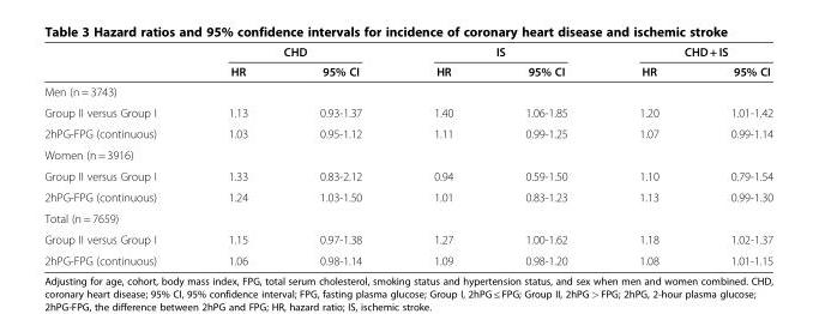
<table><thead><tr><td rowspan="2"></td><td colspan="2">CHD</td><td colspan="2">IS</td><td colspan="2">CHD + IS</td></tr><tr><td>HR</td><td>95% CI</td><td>HR</td><td>95% CI</td><td>HR</td><td>95% CI</td></tr></thead><tbody><tr><td colspan="7">Men (n = 3743)</td></tr><tr><td>Group II versus Group I</td><td>1.13</td><td>0.93-1.37</td><td>1.40</td><td>1.06-1.85</td><td>1.20</td><td>1.01-1.42</td></tr><tr><td>2hPG-FPG (continuous)</td><td>1.03</td><td>0.95-1.12</td><td>1.11</td><td>0.99-1.25</td><td>1.07</td><td>0.99-1.14</td></tr><tr><td colspan="7">Women (n = 3916)</td></tr><tr><td>Group II versus Group I</td><td>1.33</td><td>0.83-2.12</td><td>0.94</td><td>0.59-1.50</td><td>1.10</td><td>0.79-1.54</td></tr><tr><td>2hPG-FPG (continuous)</td><td>1.24</td><td>1.03-1.50</td><td>1.01</td><td>0.83-1.23</td><td>1.13</td><td>0.99-1.30</td></tr><tr><td colspan="7">Total (n = 7659)</td></tr><tr><td>Group II versus Group I</td><td>1.15</td><td>0.97-1.38</td><td>1.27</td><td>1.00-1.62</td><td>1.18</td><td>1.02-1.37</td></tr><tr><td>2hPG-FPG (continuous)</td><td>1.06</td><td>0.98-1.14</td><td>1.09</td><td>0.98-1.20</td><td>1.08</td><td>1.01-1.15</td></tr></tbody></table>